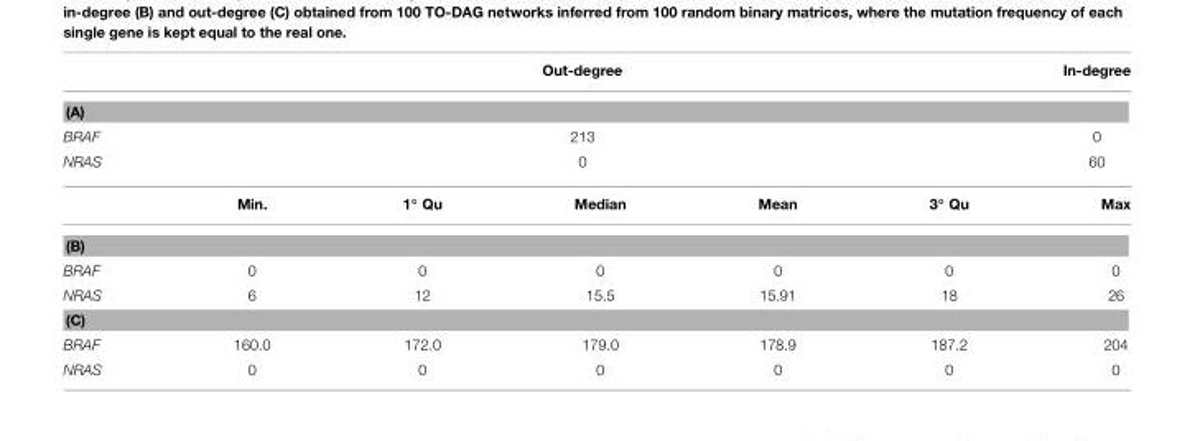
<table><thead><tr><td></td><td colspan="5">Out-degree</td><td>In-degree</td></tr></thead><tbody><tr><td colspan="7">(A)</td></tr><tr><td>BRAF</td><td colspan="5">213</td><td>0</td></tr><tr><td rowspan="2">NRAS</td><td colspan="5">0</td><td>60</td></tr><tr><td>Min.</td><td>1◦ Qu</td><td>Median</td><td>Mean</td><td>3◦ Qu</td><td>Max</td></tr><tr><td colspan="7">(B)</td></tr><tr><td>BRAF</td><td>0</td><td>0</td><td>0</td><td>0</td><td>0</td><td>0</td></tr><tr><td>NRAS</td><td>6</td><td>12</td><td>15.5</td><td>15.91</td><td>18</td><td>26</td></tr><tr><td colspan="7">(C)</td></tr><tr><td>BRAF</td><td>160.0</td><td>172.0</td><td>179.0</td><td>178.9</td><td>187.2</td><td>204</td></tr><tr><td>NRAS</td><td>0</td><td>0</td><td>0</td><td>0</td><td>0</td><td>0</td></tr></tbody></table>